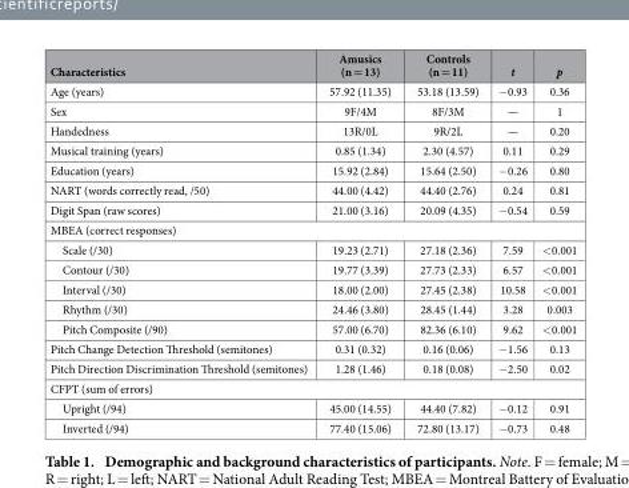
<table><thead><tr><td>Characteristics</td><td>Amusics (n = 13)</td><td>Controls (n = 11)</td><td>t</td><td>p</td></tr></thead><tbody><tr><td>Age (years)</td><td>57.92 (11.35)</td><td>53.18 (13.59)</td><td>− 0.93</td><td>0.36</td></tr><tr><td>Sex</td><td>9F/4M</td><td>8F/3M</td><td>—</td><td>1</td></tr><tr><td>Handedness</td><td>13R/0L</td><td>9R/2L</td><td>—</td><td>0.20</td></tr><tr><td>Musical training (years)</td><td>0.85 (1.34)</td><td>2.30 (4.57)</td><td>0.11</td><td>0.29</td></tr><tr><td>Education (years)</td><td>15.92 (2.84)</td><td>15.64 (2.50)</td><td>− 0.26</td><td>0.80</td></tr><tr><td>NART (words correctly read, /50)</td><td>44.00 (4.42)</td><td>44.40 (2.76)</td><td>0.24</td><td>0.81</td></tr><tr><td>Digit Span (raw scores)</td><td>21.00 (3.16)</td><td>20.09 (4.35)</td><td>− 0.54</td><td>0.59</td></tr><tr><td colspan="5">MBEA (correct responses)</td></tr><tr><td>Scale (/30)</td><td>19.23 (2.71)</td><td>27.18 (2.36)</td><td>7.59</td><td>&lt; 0.001</td></tr><tr><td>Contour (/30)</td><td>19.77 (3.39)</td><td>27.73 (2.33)</td><td>6.57</td><td>&lt; 0.001</td></tr><tr><td>Interval (/30)</td><td>18.00 (2.00)</td><td>27.45 (2.38)</td><td>10.58</td><td>&lt; 0.001</td></tr><tr><td>Rhythm (/30)</td><td>24.46 (3.80)</td><td>28.45 (1.44)</td><td>3.28</td><td>0.003</td></tr><tr><td>Pitch Composite (/90)</td><td>57.00 (6.70)</td><td>82.36 (6.10)</td><td>9.62</td><td>&lt; 0.001</td></tr><tr><td>Pitch Change Detection Threshold (semitones)</td><td>0.31 (0.32)</td><td>0.16 (0.06)</td><td>− 1.56</td><td>0.13</td></tr><tr><td>Pitch Direction Discrimination Threshold (semitones)</td><td>1.28 (1.46)</td><td>0.18 (0.08)</td><td>− 2.50</td><td>0.02</td></tr><tr><td colspan="5">CFPT (sum of errors)</td></tr><tr><td>Upright (/94)</td><td>45.00 (14.55)</td><td>44.40 (7.82)</td><td>− 0.12</td><td>0.91</td></tr><tr><td>Inverted (/94)</td><td>77.40 (15.06)</td><td>72.80 (13.17)</td><td>− 0.73</td><td>0.48</td></tr></tbody></table>